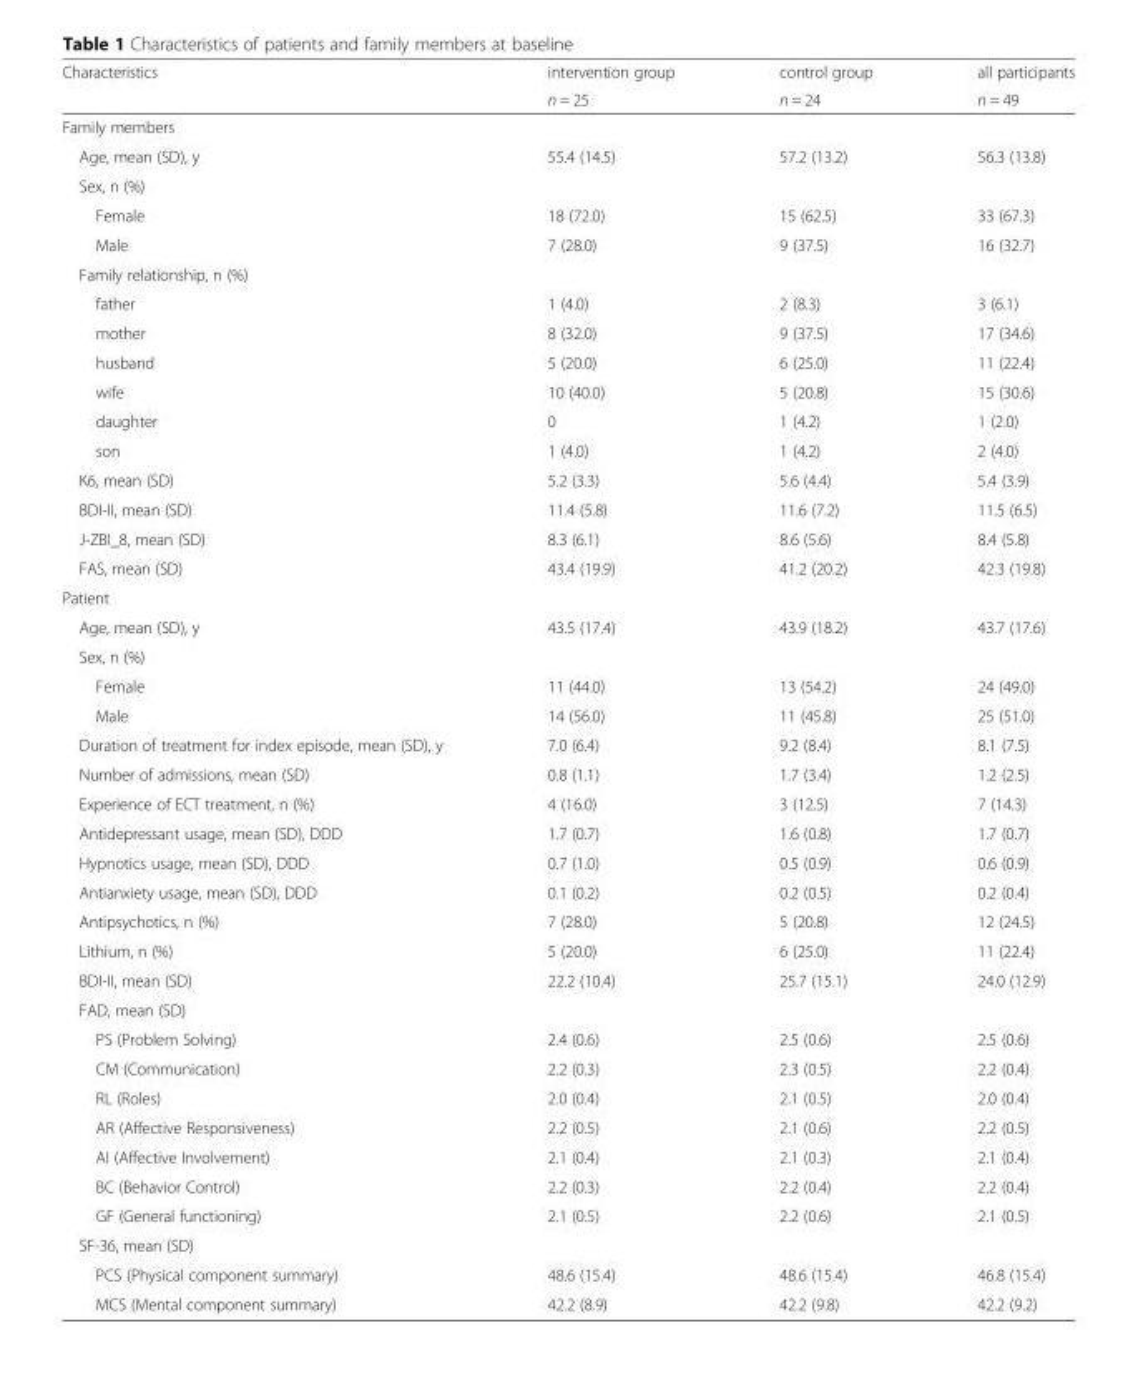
<table><thead><tr><td rowspan="2">Characteristics</td><td rowspan="2">intervention group n = 25</td><td rowspan="2">control group n = 24</td><td rowspan="2">all participants n = 49</td></tr><tr></tr></thead><tbody><tr><td colspan="4">Family members</td></tr><tr><td>Age, mean (SD), y</td><td>55.4 (14.5)</td><td>57.2 (13.2)</td><td>56.3 (13.8)</td></tr><tr><td colspan="4">Sex, n (%)</td></tr><tr><td>Female</td><td>18 (72.0)</td><td>15 (62.5)</td><td>33 (67.3)</td></tr><tr><td>Male</td><td>7 (28.0)</td><td>9 (37.5)</td><td>16 (32.7)</td></tr><tr><td colspan="4">Family relationship, n (%)</td></tr><tr><td>father</td><td>1 (4.0)</td><td>2 (8.3)</td><td>3 (6.1)</td></tr><tr><td>mother</td><td>8 (32.0)</td><td>9 (37.5)</td><td>17 (34.6)</td></tr><tr><td>husband</td><td>5 (20.0)</td><td>6 (25.0)</td><td>11 (22.4)</td></tr><tr><td>wife</td><td>10 (40.0)</td><td>5 (20.8)</td><td>15 (30.6)</td></tr><tr><td>daughter</td><td>0</td><td>1 (4.2)</td><td>1 (2.0)</td></tr><tr><td>son</td><td>1 (4.0)</td><td>1 (4.2)</td><td>2 (4.0)</td></tr><tr><td>K6, mean (SD)</td><td>5.2 (3.3)</td><td>5.6 (4.4)</td><td>5.4 (3.9)</td></tr><tr><td>BDI-II, mean (SD)</td><td>11.4 (5.8)</td><td>11.6 (7.2)</td><td>11.5 (6.5)</td></tr><tr><td>J-ZBI_8, mean (SD)</td><td>8.3 (6.1)</td><td>8.6 (5.6)</td><td>8.4 (5.8)</td></tr><tr><td>FAS, mean (SD)</td><td>43.4 (19.9)</td><td>41.2 (20.2)</td><td>42.3 (19.8)</td></tr><tr><td colspan="4">Patient</td></tr><tr><td>Age, mean (SD), y</td><td>43.5 (17.4)</td><td>43.9 (18.2)</td><td>43.7 (17.6)</td></tr><tr><td colspan="4">Sex, n (%)</td></tr><tr><td>Female</td><td>11 (44.0)</td><td>13 (54.2)</td><td>24 (49.0)</td></tr><tr><td>Male</td><td>14 (56.0)</td><td>11 (45.8)</td><td>25 (51.0)</td></tr><tr><td>Duration of treatment for index episode, mean (SD), y</td><td>7.0 (6.4)</td><td>9.2 (8.4)</td><td>8.1 (7.5)</td></tr><tr><td>Number of admissions, mean (SD)</td><td>0.8 (1.1)</td><td>1.7 (3.4)</td><td>1.2 (2.5)</td></tr><tr><td>Experience of ECT treatment, n (%)</td><td>4 (16.0)</td><td>3 (12.5)</td><td>7 (14.3)</td></tr><tr><td>Antidepressant usage, mean (SD), DDD</td><td>1.7 (0.7)</td><td>1.6 (0.8)</td><td>1.7 (0.7)</td></tr><tr><td>Hypnotics usage, mean (SD), DDD</td><td>0.7 (1.0)</td><td>0.5 (0.9)</td><td>0.6 (0.9)</td></tr><tr><td>Antianxiety usage, mean (SD), DDD</td><td>0.1 (0.2)</td><td>0.2 (0.5)</td><td>0.2 (0.4)</td></tr><tr><td>Antipsychotics, n (%)</td><td>7 (28.0)</td><td>5 (20.8)</td><td>12 (24.5)</td></tr><tr><td>Lithium, n (%)</td><td>5 (20.0)</td><td>6 (25.0)</td><td>11 (22.4)</td></tr><tr><td>BDI-II, mean (SD)</td><td>22.2 (10.4)</td><td>25.7 (15.1)</td><td>24.0 (12.9)</td></tr><tr><td colspan="4">FAD, mean (SD)</td></tr><tr><td>PS (Problem Solving)</td><td>2.4 (0.6)</td><td>2.5 (0.6)</td><td>2.5 (0.6)</td></tr><tr><td>CM (Communication)</td><td>2.2 (0.3)</td><td>2.3 (0.5)</td><td>2.2 (0.4)</td></tr><tr><td>RL (Roles)</td><td>2.0 (0.4)</td><td>2.1 (0.5)</td><td>2.0 (0.4)</td></tr><tr><td>AR (Affective Responsiveness)</td><td>2.2 (0.5)</td><td>2.1 (0.6)</td><td>2.2 (0.5)</td></tr><tr><td>AI (Affective Involvement)</td><td>2.1 (0.4)</td><td>2.1 (0.3)</td><td>2.1 (0.4)</td></tr><tr><td>BC (Behavior Control)</td><td>2.2 (0.3)</td><td>2.2 (0.4)</td><td>2.2 (0.4)</td></tr><tr><td>GF (General functioning)</td><td>2.1 (0.5)</td><td>2.2 (0.6)</td><td>2.1 (0.5)</td></tr><tr><td colspan="4">SF-36, mean (SD)</td></tr><tr><td>PCS (Physical component summary)</td><td>48.6 (15.4)</td><td>48.6 (15.4)</td><td>46.8 (15.4)</td></tr><tr><td>MCS (Mental component summary)</td><td>42.2 (8.9)</td><td>42.2 (9.8)</td><td>42.2 (9.2)</td></tr></tbody></table>